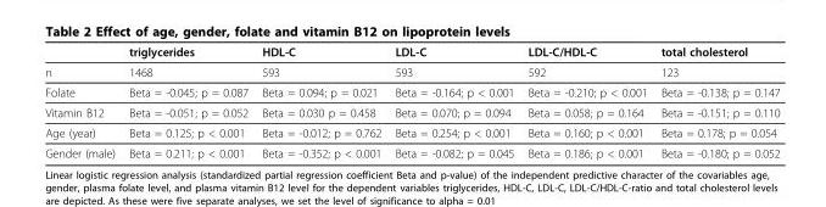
<table><thead><tr><td></td><td>triglycerides</td><td>HDL-C</td><td>LDL-C</td><td>LDL-C/HDL-C</td><td>total cholesterol</td></tr></thead><tbody><tr><td>n</td><td>1468</td><td>593</td><td>593</td><td>592</td><td>123</td></tr><tr><td>Folate</td><td>Beta = -0.045; p = 0.087</td><td>Beta = 0.094; p = 0.021</td><td>Beta = -0.164; p &lt; 0.001</td><td>Beta = -0.210; p &lt; 0.001</td><td>Beta = -0.138; p = 0.147</td></tr><tr><td>Vitamin B12</td><td>Beta = -0.051; p = 0.052</td><td>Beta = 0.030 p = 0.458</td><td>Beta = 0.070; p = 0.094</td><td>Beta = 0.058; p = 0.164</td><td>Beta = -0.151; p = 0.110</td></tr><tr><td>Age (year)</td><td>Beta = 0.125; p &lt; 0.001</td><td>Beta = -0.012; p = 0.762</td><td>Beta = 0.254; p &lt; 0.001</td><td>Beta = 0.160; p &lt; 0.001</td><td>Beta = 0.178; p = 0.054</td></tr><tr><td>Gender (male)</td><td>Beta = 0.211; p &lt; 0.001</td><td>Beta = -0.352; p &lt; 0.001</td><td>Beta = -0.082; p = 0.045</td><td>Beta = 0.186; p &lt; 0.001</td><td>Beta = -0.180; p = 0.052</td></tr></tbody></table>